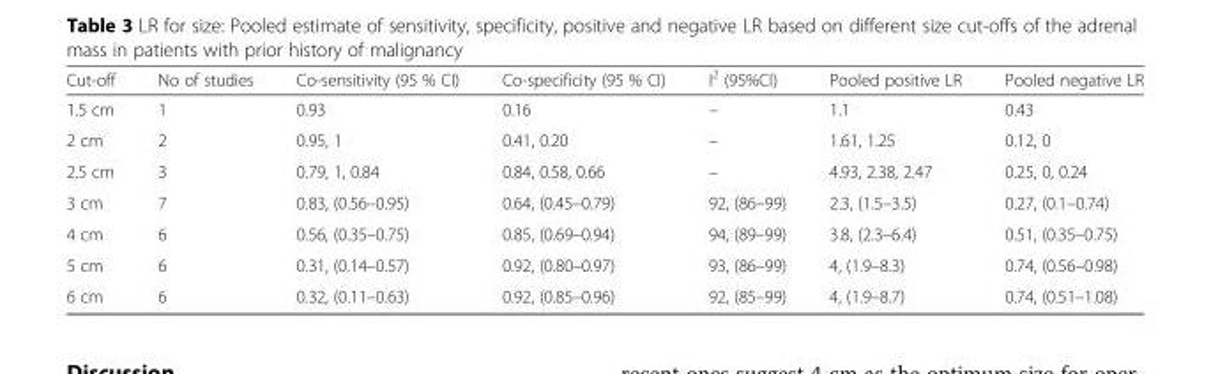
<table><thead><tr><td>Cut-off</td><td>No of studies</td><td>Co-sensitivity (95 % CI)</td><td>Co-specificity (95 % CI)</td><td>I<sup>2</sup> (95%CI)</td><td>Pooled positive LR</td><td>Pooled negative LR</td></tr></thead><tbody><tr><td>1.5 cm</td><td>1</td><td>0.93</td><td>0.16</td><td>–</td><td>1.1</td><td>0.43</td></tr><tr><td>2 cm</td><td>2</td><td>0.95, 1</td><td>0.41, 0.20</td><td>–</td><td>1.61, 1.25</td><td>0.12, 0</td></tr><tr><td>2.5 cm</td><td>3</td><td>0.79, 1, 0.84</td><td>0.84, 0.58, 0.66</td><td>–</td><td>4.93, 2.38, 2.47</td><td>0.25, 0, 0.24</td></tr><tr><td>3 cm</td><td>7</td><td>0.83, (0.56–0.95)</td><td>0.64, (0.45–0.79)</td><td>92, (86–99)</td><td>2.3, (1.5–3.5)</td><td>0.27, (0.1–0.74)</td></tr><tr><td>4 cm</td><td>6</td><td>0.56, (0.35–0.75)</td><td>0.85, (0.69–0.94)</td><td>94, (89–99)</td><td>3.8, (2.3–6.4)</td><td>0.51, (0.35–0.75)</td></tr><tr><td>5 cm</td><td>6</td><td>0.31, (0.14–0.57)</td><td>0.92, (0.80–0.97)</td><td>93, (86–99)</td><td>4, (1.9–8.3)</td><td>0.74, (0.56–0.98)</td></tr><tr><td>6 cm</td><td>6</td><td>0.32, (0.11–0.63)</td><td>0.92, (0.85–0.96)</td><td>92, (85–99)</td><td>4, (1.9–8.7)</td><td>0.74, (0.51–1.08)</td></tr></tbody></table>